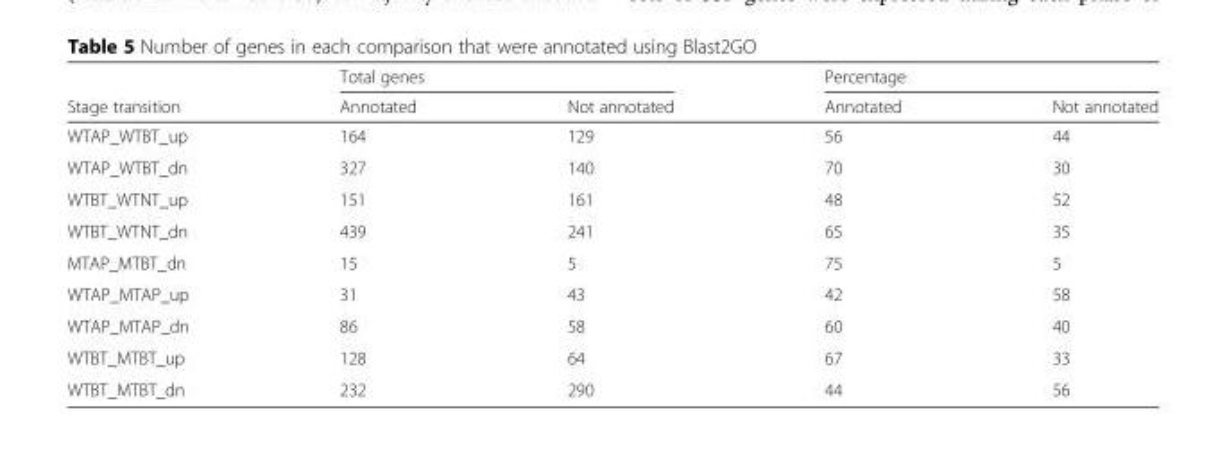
<table><thead><tr><td rowspan="2">Stage transition</td><td colspan="2">Total genes</td><td colspan="2">Percentage</td></tr><tr><td>Annotated</td><td>Not annotated</td><td>Annotated</td><td>Not annotated</td></tr></thead><tbody><tr><td>WTAP_WTBT_up</td><td>164</td><td>129</td><td>56</td><td>44</td></tr><tr><td>WTAP_WTBT_dn</td><td>327</td><td>140</td><td>70</td><td>30</td></tr><tr><td>WTBT_WTNT_up</td><td>151</td><td>161</td><td>48</td><td>52</td></tr><tr><td>WTBT_WTNT_dn</td><td>439</td><td>241</td><td>65</td><td>35</td></tr><tr><td>MTAP_MTBT_dn</td><td>15</td><td>5</td><td>75</td><td>5</td></tr><tr><td>WTAP_MTAP_up</td><td>31</td><td>43</td><td>42</td><td>58</td></tr><tr><td>WTAP_MTAP_dn</td><td>86</td><td>58</td><td>60</td><td>40</td></tr><tr><td>WTBT_MTBT_up</td><td>128</td><td>64</td><td>67</td><td>33</td></tr><tr><td>WTBT_MTBT_dn</td><td>232</td><td>290</td><td>44</td><td>56</td></tr></tbody></table>